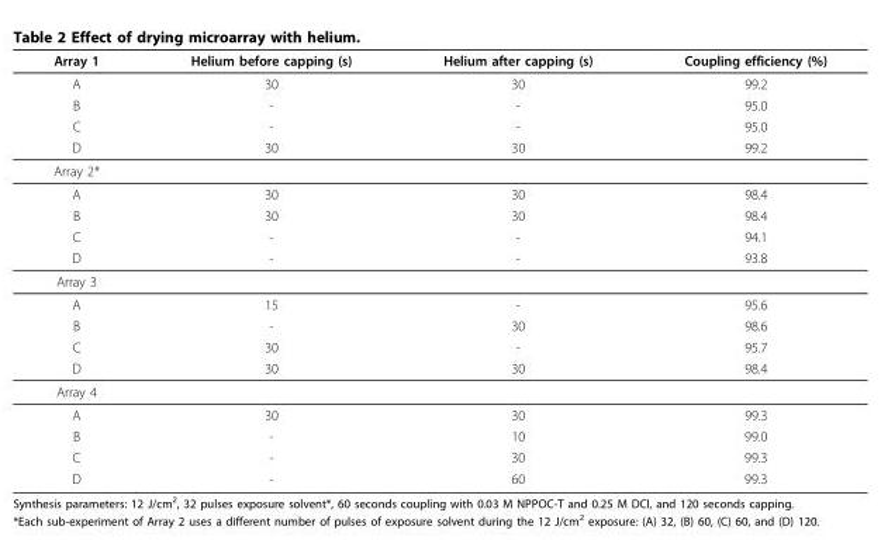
<table><thead><tr><td>Array 1</td><td>Helium before capping (s)</td><td>Helium after capping (s)</td><td>Coupling efficiency (%)</td></tr></thead><tbody><tr><td>A</td><td>30</td><td>30</td><td>99.2</td></tr><tr><td>B</td><td>-</td><td>-</td><td>95.0</td></tr><tr><td>C</td><td>-</td><td>-</td><td>95.0</td></tr><tr><td>D</td><td>30</td><td>30</td><td>99.2</td></tr><tr><td colspan="4">Array 2*</td></tr><tr><td>A</td><td>30</td><td>30</td><td>98.4</td></tr><tr><td>B</td><td>30</td><td>30</td><td>98.4</td></tr><tr><td>C</td><td>-</td><td>-</td><td>94.1</td></tr><tr><td>D</td><td>-</td><td>-</td><td>93.8</td></tr><tr><td colspan="4">Array 3</td></tr><tr><td>A</td><td>15</td><td>-</td><td>95.6</td></tr><tr><td>B</td><td>-</td><td>30</td><td>98.6</td></tr><tr><td>C</td><td>30</td><td>-</td><td>95.7</td></tr><tr><td>D</td><td>30</td><td>30</td><td>98.4</td></tr><tr><td colspan="4">Array 4</td></tr><tr><td>A</td><td>30</td><td>30</td><td>99.3</td></tr><tr><td>B</td><td>-</td><td>10</td><td>99.0</td></tr><tr><td>C</td><td>-</td><td>30</td><td>99.3</td></tr><tr><td>D</td><td>-</td><td>60</td><td>99.3</td></tr></tbody></table>